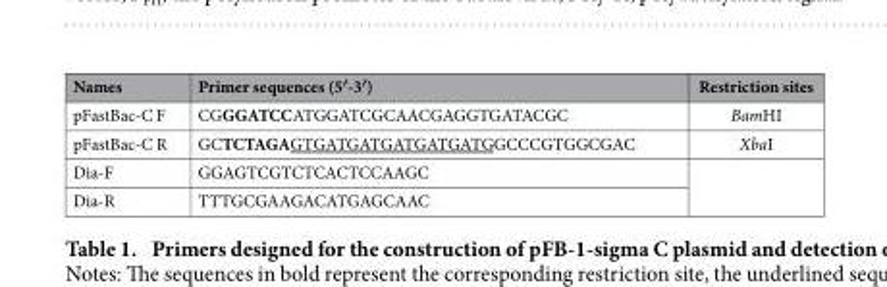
<table><thead><tr><td>Names</td><td>Primer sequences (5′-3′)</td><td>Restriction sites</td></tr></thead><tbody><tr><td>pFastBac-C F</td><td>CGGGATCCATGGATCGCAACGAGGTGATACGC</td><td>BamHI</td></tr><tr><td>pFastBac-C R</td><td>GCTCTAGAGTGATGATGATGATGATGGCCCGTGGCGAC</td><td>XbaI</td></tr><tr><td>Dia-F</td><td>GGAGTCGTCTCACTCCAAGC</td><td rowspan="2"></td></tr><tr><td>Dia-R</td><td>TTTGCGAAGACATGAGCAAC</td></tr></tbody></table>